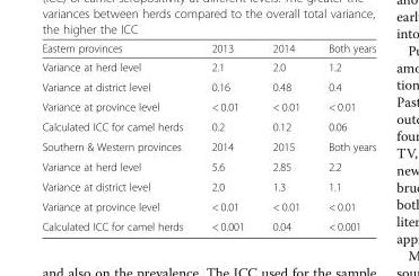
<table><thead><tr><td>Eastern provinces</td><td>2013</td><td>2014</td><td>Both years</td></tr></thead><tbody><tr><td>Variance at herd level</td><td>2.1</td><td>2.0</td><td>1.2</td></tr><tr><td>Variance at district level</td><td>0.16</td><td>0.48</td><td>0.4</td></tr><tr><td>Variance at province level</td><td>&lt; 0.01</td><td>&lt; 0.01</td><td>&lt; 0.01</td></tr><tr><td>Calculated ICC for camel herds</td><td>0.2</td><td>0.12</td><td>0.06</td></tr><tr><td>Southern &amp; Western provinces</td><td>2014</td><td>2015</td><td>Both years</td></tr><tr><td>Variance at herd level</td><td>5.6</td><td>2.85</td><td>2.2</td></tr><tr><td>Variance at district level</td><td>2.0</td><td>1.3</td><td>1.1</td></tr><tr><td>Variance at province level</td><td>&lt; 0.01</td><td>&lt; 0.01</td><td>&lt; 0.01</td></tr><tr><td>Calculated ICC for camel herds</td><td>&lt; 0.001</td><td>0.04</td><td>&lt; 0.001</td></tr></tbody></table>